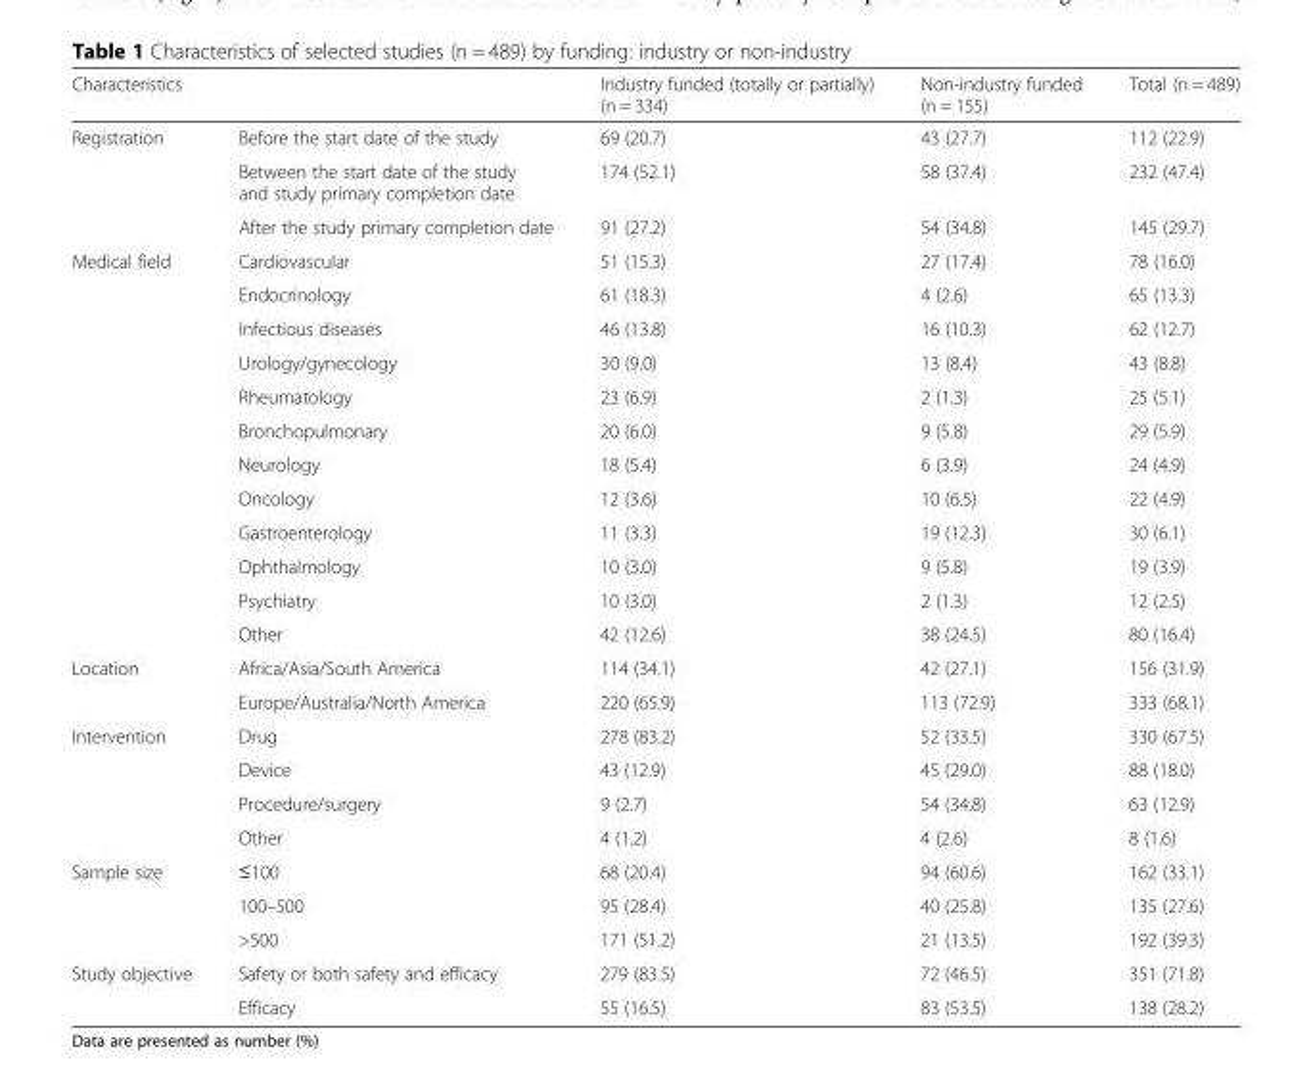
<table><thead><tr><td colspan="2">Characteristics</td><td rowspan="2">Industry funded (totally or partially) (n = 334) 69 (20.7)</td><td rowspan="2">Non-industry funded (n = 155) 43 (27.7)</td><td rowspan="2">Total (n = 489) 112 (22.9)</td></tr><tr><td>Registration</td><td>Before the start date of the study</td></tr></thead><tbody><tr><td></td><td>Between the start date of the study and study primary completion date</td><td>174 (52.1)</td><td>58 (37.4)</td><td>232 (47.4)</td></tr><tr><td></td><td>After the study primary completion date</td><td>91 (27.2)</td><td>54 (34.8)</td><td>145 (29.7)</td></tr><tr><td rowspan="12">Medical field</td><td>Cardiovascular</td><td>51 (15.3)</td><td>27 (17.4)</td><td>78 (16.0)</td></tr><tr><td>Endocrinology</td><td>61 (18.3)</td><td>4 (2.6)</td><td>65 (13.3)</td></tr><tr><td>Infectious diseases</td><td>46 (13.8)</td><td>16 (10.3)</td><td>62 (12.7)</td></tr><tr><td>Urology/gynecology</td><td>30 (9.0)</td><td>13 (8.4)</td><td>43 (8.8)</td></tr><tr><td>Rheumatology</td><td>23 (6.9)</td><td>2 (1.3)</td><td>25 (5.1)</td></tr><tr><td>Bronchopulmonary</td><td>20 (6.0)</td><td>9 (5.8)</td><td>29 (5.9)</td></tr><tr><td>Neurology</td><td>18 (5.4)</td><td>6 (3.9)</td><td>24 (4.9)</td></tr><tr><td>Oncology</td><td>12 (3.6)</td><td>10 (6.5)</td><td>22 (4.9)</td></tr><tr><td>Gastroenterology</td><td>11 (3.3)</td><td>19 (12.3)</td><td>30 (6.1)</td></tr><tr><td>Ophthalmology</td><td>10 (3.0)</td><td>9 (5.8)</td><td>19 (3.9)</td></tr><tr><td>Psychiatry</td><td>10 (3.0)</td><td>2 (1.3)</td><td>12 (2.5)</td></tr><tr><td>Other</td><td>42 (12.6)</td><td>38 (24.5)</td><td>80 (16.4)</td></tr><tr><td rowspan="2">Location</td><td>Africa/Asia/South America</td><td>114 (34.1)</td><td>42 (27.1)</td><td>156 (31.9)</td></tr><tr><td>Europe/Australia/North America</td><td>220 (65.9)</td><td>113 (72.9)</td><td>333 (68.1)</td></tr><tr><td rowspan="4">Intervention</td><td>Drug</td><td>278 (83.2)</td><td>52 (33.5)</td><td>330 (67.5)</td></tr><tr><td>Device</td><td>43 (12.9)</td><td>45 (29.0)</td><td>88 (18.0)</td></tr><tr><td>Procedure/surgery</td><td>9 (2.7)</td><td>54 (34.8)</td><td>63 (12.9)</td></tr><tr><td>Other</td><td>4 (1.2)</td><td>4 (2.6)</td><td>8 (1.6)</td></tr><tr><td rowspan="3">Sample size</td><td>≤100</td><td>68 (20.4)</td><td>94 (60.6)</td><td>162 (33.1)</td></tr><tr><td>100–500</td><td>95 (28.4)</td><td>40 (25.8)</td><td>135 (27.6)</td></tr><tr><td>&gt;500</td><td>171 (51.2)</td><td>21 (13.5)</td><td>192 (39.3)</td></tr><tr><td rowspan="2">Study objective</td><td>Safety or both safety and efficacy</td><td>279 (83.5)</td><td>72 (46.5)</td><td>351 (71.8)</td></tr><tr><td>Efficacy</td><td>55 (16.5)</td><td>83 (53.5)</td><td>138 (28.2)</td></tr></tbody></table>